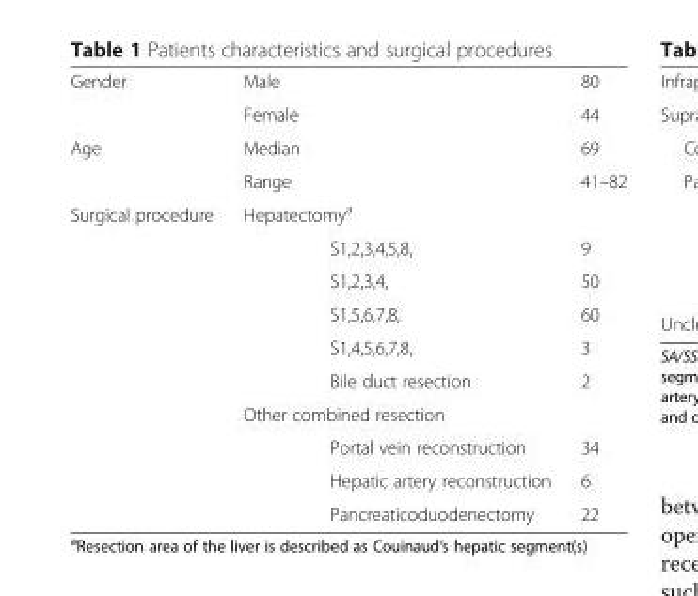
<table><tbody><tr><td rowspan="2">Gender</td><td>Male</td><td></td><td>80</td></tr><tr><td>Female</td><td></td><td>44</td></tr><tr><td rowspan="2">Age</td><td>Median</td><td></td><td>69</td></tr><tr><td>Range</td><td></td><td>41–82</td></tr><tr><td rowspan="10">Surgical procedure</td><td colspan="2">Hepatectomy<sup>a</sup></td><td></td></tr><tr><td></td><td>S1,2,3,4,5,8,</td><td>9</td></tr><tr><td></td><td>S1,2,3,4,</td><td>50</td></tr><tr><td></td><td>S1,5,6,7,8,</td><td>60</td></tr><tr><td></td><td>S1,4,5,6,7,8,</td><td>3</td></tr><tr><td></td><td>Bile duct resection</td><td>2</td></tr><tr><td colspan="2">Other combined resection</td><td></td></tr><tr><td></td><td>Portal vein reconstruction</td><td>34</td></tr><tr><td></td><td>Hepatic artery reconstruction</td><td>6</td></tr><tr><td></td><td>Pancreaticoduodenectomy</td><td>22</td></tr></tbody></table>